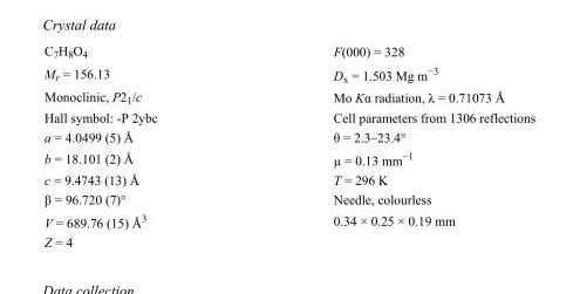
<table><tbody><tr><td>C<sub>7</sub>H<sub>8</sub>O<sub>4</sub></td><td>F(000) = 328</td></tr><tr><td>M<sub>r</sub> = 156.13</td><td>D<sub>x</sub> = 1.503 Mg m<sup>−3</sup></td></tr><tr><td>Monoclinic, P2<sub>1</sub>/c</td><td>Mo Kα radiation, λ = 0.71073 Å</td></tr><tr><td>Hall symbol: -P 2ybc</td><td>Cell parameters from 1306 reflections</td></tr><tr><td>a = 4.0499 (5) Å</td><td>θ = 2.3–23.4°</td></tr><tr><td>b = 18.101 (2) Å</td><td>µ = 0.13 mm<sup>−1</sup></td></tr><tr><td>c = 9.4743 (13) Å</td><td>T = 296 K</td></tr><tr><td>β = 96.720 (7)°</td><td>Needle, colourless</td></tr><tr><td>V = 689.76 (15) Å<sup>3</sup></td><td>0.34 × 0.25 × 0.19 mm</td></tr><tr><td>Z = 4</td><td></td></tr></tbody></table>